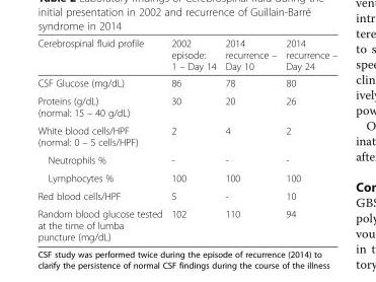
<table><thead><tr><td>Cerebrospinal fluid profile</td><td>2002 episode: 1 – Day 14</td><td>2014 recurrence – Day 10</td><td>2014 recurrence – Day 24</td></tr></thead><tbody><tr><td>CSF Glucose (mg/dL)</td><td>86</td><td>78</td><td>80</td></tr><tr><td>Proteins (g/dL) (normal: 15 – 40 g/dL)</td><td>30</td><td>20</td><td>26</td></tr><tr><td>White blood cells/HPF (normal: 0 – 5 cells/HPF)</td><td>2</td><td>4</td><td>2</td></tr><tr><td>Neutrophils %</td><td>-</td><td>-</td><td>-</td></tr><tr><td>Lymphocytes %</td><td>100</td><td>100</td><td>100</td></tr><tr><td>Red blood cells/HPF</td><td>5</td><td>-</td><td>10</td></tr><tr><td>Random blood glucose tested at the time of lumba puncture (mg/dL)</td><td>102</td><td>110</td><td>94</td></tr></tbody></table>